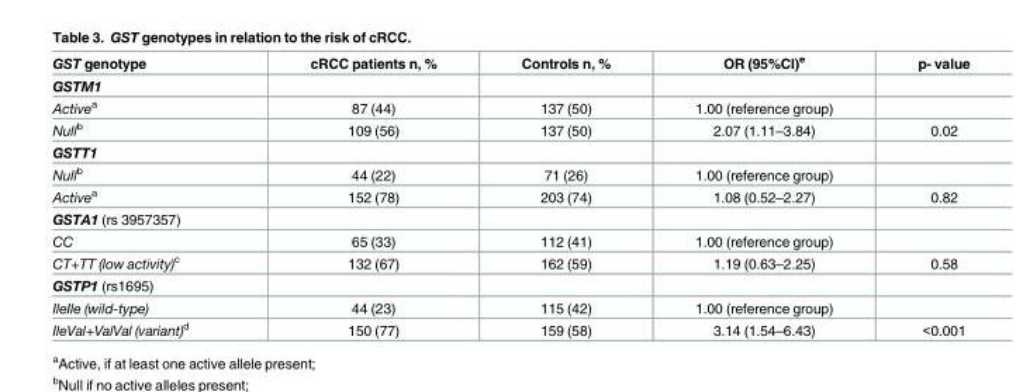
<table><thead><tr><td>GST genotype</td><td>cRCC patients n, %</td><td>Controls n, %</td><td>OR (95%CI)e</td><td>p- value</td></tr></thead><tbody><tr><td colspan="5">GSTM1</td></tr><tr><td>Activea</td><td>87 (44)</td><td>137 (50)</td><td>1.00 (reference group)</td><td></td></tr><tr><td>Nullb</td><td>109 (56)</td><td>137 (50)</td><td>2.07 (1.11–3.84)</td><td>0.02</td></tr><tr><td colspan="5">GSTT1</td></tr><tr><td>Nullb</td><td>44 (22)</td><td>71 (26)</td><td>1.00 (reference group)</td><td></td></tr><tr><td>Activea</td><td>152 (78)</td><td>203 (74)</td><td>1.08 (0.52–2.27)</td><td>0.82</td></tr><tr><td colspan="5">GSTA1 (rs 3957357)</td></tr><tr><td>CC</td><td>65 (33)</td><td>112 (41)</td><td>1.00 (reference group)</td><td></td></tr><tr><td>CT+TT (low activity)c</td><td>132 (67)</td><td>162 (59)</td><td>1.19 (0.63–2.25)</td><td>0.58</td></tr><tr><td colspan="5">GSTP1 (rs1695)</td></tr><tr><td>IleIle (wild-type)</td><td>44 (23)</td><td>115 (42)</td><td>1.00 (reference group)</td><td></td></tr><tr><td>IleVal+ValVal (variant)d</td><td>150 (77)</td><td>159 (58)</td><td>3.14 (1.54–6.43)</td><td>&lt;0.001</td></tr></tbody></table>